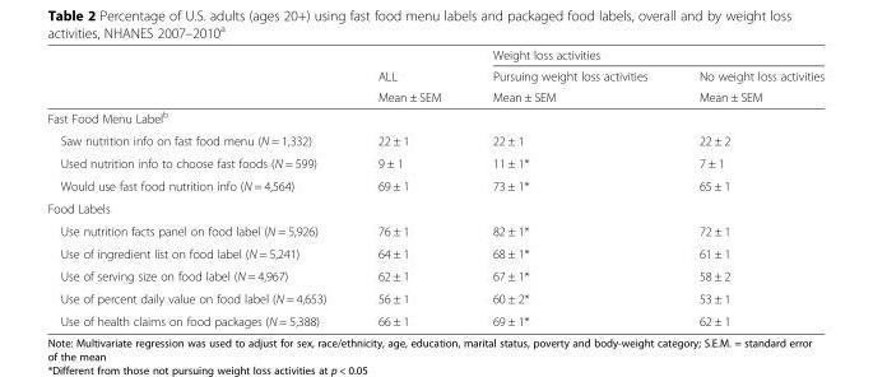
<table><thead><tr><td rowspan="3"></td><td rowspan="3">ALL Mean ± SEM</td><td colspan="2">Weight loss activities</td></tr><tr><td rowspan="2">Pursuing weight loss activities Mean ± SEM</td><td rowspan="2">No weight loss activities Mean ± SEM</td></tr><tr></tr></thead><tbody><tr><td colspan="4">Fast Food Menu Label<sup>b</sup></td></tr><tr><td>Saw nutrition info on fast food menu (N = 1,332)</td><td>22 ± 1</td><td>22 ± 1</td><td>22 ± 2</td></tr><tr><td>Used nutrition info to choose fast foods (N = 599)</td><td>9 ± 1</td><td>11 ± 1*</td><td>7 ± 1</td></tr><tr><td>Would use fast food nutrition info (N = 4,564)</td><td>69 ± 1</td><td>73 ± 1*</td><td>65 ± 1</td></tr><tr><td colspan="4">Food Labels</td></tr><tr><td>Use nutrition facts panel on food label (N = 5,926)</td><td>76 ± 1</td><td>82 ± 1*</td><td>72 ± 1</td></tr><tr><td>Use of ingredient list on food label (N = 5,241)</td><td>64 ± 1</td><td>68 ± 1*</td><td>61 ± 1</td></tr><tr><td>Use of serving size on food label (N = 4,967)</td><td>62 ± 1</td><td>67 ± 1*</td><td>58 ± 2</td></tr><tr><td>Use of percent daily value on food label (N = 4,653)</td><td>56 ± 1</td><td>60 ± 2*</td><td>53 ± 1</td></tr><tr><td>Use of health claims on food packages (N = 5,388)</td><td>66 ± 1</td><td>69 ± 1*</td><td>62 ± 1</td></tr></tbody></table>